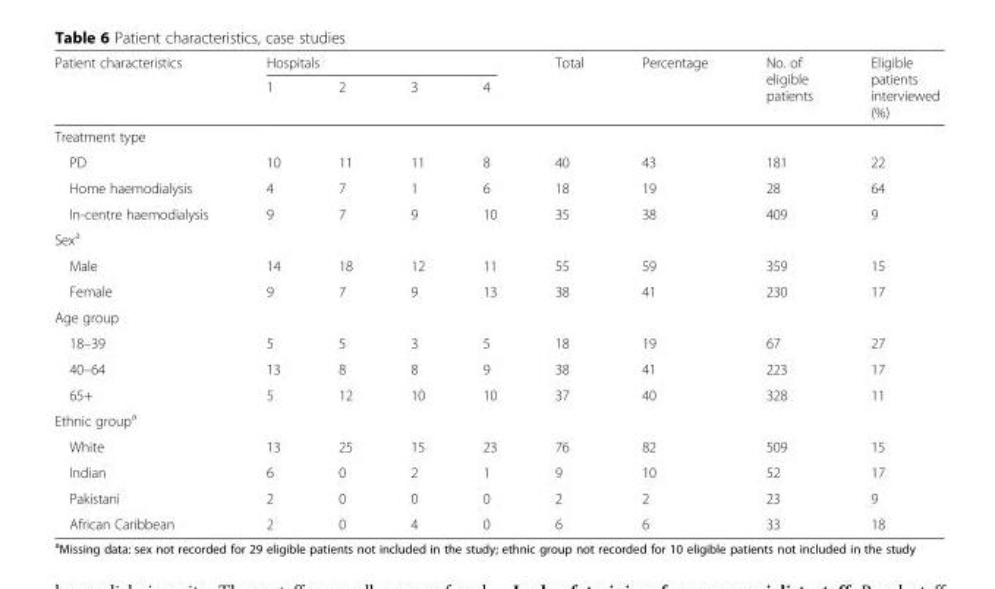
<table><thead><tr><td rowspan="2">Patient characteristics</td><td colspan="4">Hospitals</td><td rowspan="2">Total</td><td rowspan="2">Percentage</td><td rowspan="2">No. of eligible patients</td><td rowspan="2">Eligible patients interviewed (%)</td></tr><tr><td>1</td><td>2</td><td>3</td><td>4</td></tr></thead><tbody><tr><td colspan="9">Treatment type</td></tr><tr><td>PD</td><td>10</td><td>11</td><td>11</td><td>8</td><td>40</td><td>43</td><td>181</td><td>22</td></tr><tr><td>Home haemodialysis</td><td>4</td><td>7</td><td>1</td><td>6</td><td>18</td><td>19</td><td>28</td><td>64</td></tr><tr><td>In-centre haemodialysis</td><td>9</td><td>7</td><td>9</td><td>10</td><td>35</td><td>38</td><td>409</td><td>9</td></tr><tr><td colspan="9">Sex<sup>a</sup></td></tr><tr><td>Male</td><td>14</td><td>18</td><td>12</td><td>11</td><td>55</td><td>59</td><td>359</td><td>15</td></tr><tr><td>Female</td><td>9</td><td>7</td><td>9</td><td>13</td><td>38</td><td>41</td><td>230</td><td>17</td></tr><tr><td colspan="9">Age group</td></tr><tr><td>18–39</td><td>5</td><td>5</td><td>3</td><td>5</td><td>18</td><td>19</td><td>67</td><td>27</td></tr><tr><td>40–64</td><td>13</td><td>8</td><td>8</td><td>9</td><td>38</td><td>41</td><td>223</td><td>17</td></tr><tr><td>65+</td><td>5</td><td>12</td><td>10</td><td>10</td><td>37</td><td>40</td><td>328</td><td>11</td></tr><tr><td colspan="9">Ethnic group<sup>a</sup></td></tr><tr><td>White</td><td>13</td><td>25</td><td>15</td><td>23</td><td>76</td><td>82</td><td>509</td><td>15</td></tr><tr><td>Indian</td><td>6</td><td>0</td><td>2</td><td>1</td><td>9</td><td>10</td><td>52</td><td>17</td></tr><tr><td>Pakistani</td><td>2</td><td>0</td><td>0</td><td>0</td><td>2</td><td>2</td><td>23</td><td>9</td></tr><tr><td>African Caribbean</td><td>2</td><td>0</td><td>4</td><td>0</td><td>6</td><td>6</td><td>33</td><td>18</td></tr></tbody></table>